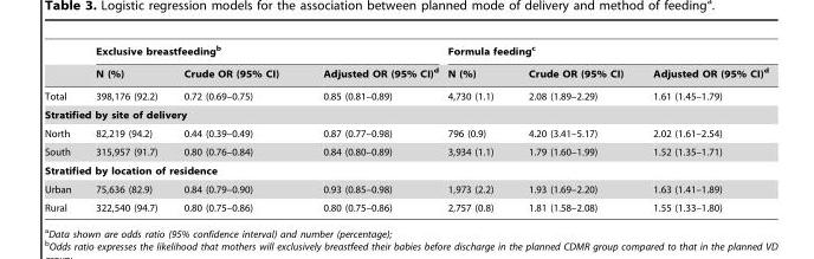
<table><thead><tr><td rowspan="2"></td><td colspan="3">Exclusive breastfeeding<sup>b</sup></td><td colspan="3">Formula feeding<sup>c</sup></td></tr><tr><td>N (%)</td><td>Crude OR (95% CI)</td><td>Adjusted OR (95% CI)<sup>d</sup></td><td>N (%)</td><td>Crude OR (95% CI)</td><td>Adjusted OR (95% CI)<sup>d</sup></td></tr></thead><tbody><tr><td>Total</td><td>398,176 (92.2)</td><td>0.72 (0.69–0.75)</td><td>0.85 (0.81–0.89)</td><td>4,730 (1.1)</td><td>2.08 (1.89–2.29)</td><td>1.61 (1.45–1.79)</td></tr><tr><td colspan="7">Stratified by site of delivery</td></tr><tr><td>North</td><td>82,219 (94.2)</td><td>0.44 (0.39–0.49)</td><td>0.87 (0.77–0.98)</td><td>796 (0.9)</td><td>4.20 (3.41–5.17)</td><td>2.02 (1.61–2.54)</td></tr><tr><td>South</td><td>315,957 (91.7)</td><td>0.80 (0.76–0.84)</td><td>0.84 (0.80–0.89)</td><td>3,934 (1.1)</td><td>1.79 (1.60–1.99)</td><td>1.52 (1.35–1.71)</td></tr><tr><td colspan="7">Stratified by location of residence</td></tr><tr><td>Urban</td><td>75,636 (82.9)</td><td>0.84 (0.79–0.90)</td><td>0.93 (0.85–0.98)</td><td>1,973 (2.2)</td><td>1.93 (1.69–2.20)</td><td>1.63 (1.41–1.89)</td></tr><tr><td>Rural</td><td>322,540 (94.7)</td><td>0.80 (0.75–0.86)</td><td>0.80 (0.75–0.86)</td><td>2,757 (0.8)</td><td>1.81 (1.58–2.08)</td><td>1.55 (1.33–1.80)</td></tr></tbody></table>